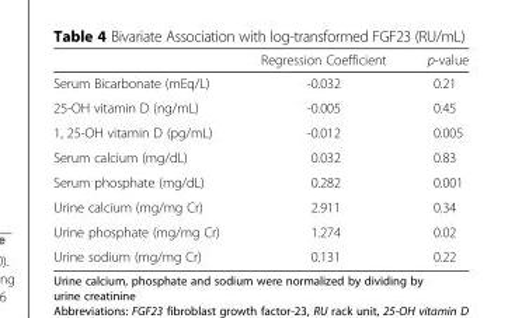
<table><thead><tr><td></td><td>Regression Coefficient</td><td>p-value</td></tr></thead><tbody><tr><td>Serum Bicarbonate (mEq/L)</td><td>-0.032</td><td>0.21</td></tr><tr><td>25-OH vitamin D (ng/mL)</td><td>-0.005</td><td>0.45</td></tr><tr><td>1, 25-OH vitamin D (pg/mL)</td><td>-0.012</td><td>0.005</td></tr><tr><td>Serum calcium (mg/dL)</td><td>0.032</td><td>0.83</td></tr><tr><td>Serum phosphate (mg/dL)</td><td>0.282</td><td>0.001</td></tr><tr><td>Urine calcium (mg/mg Cr)</td><td>2.911</td><td>0.34</td></tr><tr><td>Urine phosphate (mg/mg Cr)</td><td>1.274</td><td>0.02</td></tr><tr><td>Urine sodium (mg/mg Cr)</td><td>0.131</td><td>0.22</td></tr></tbody></table>